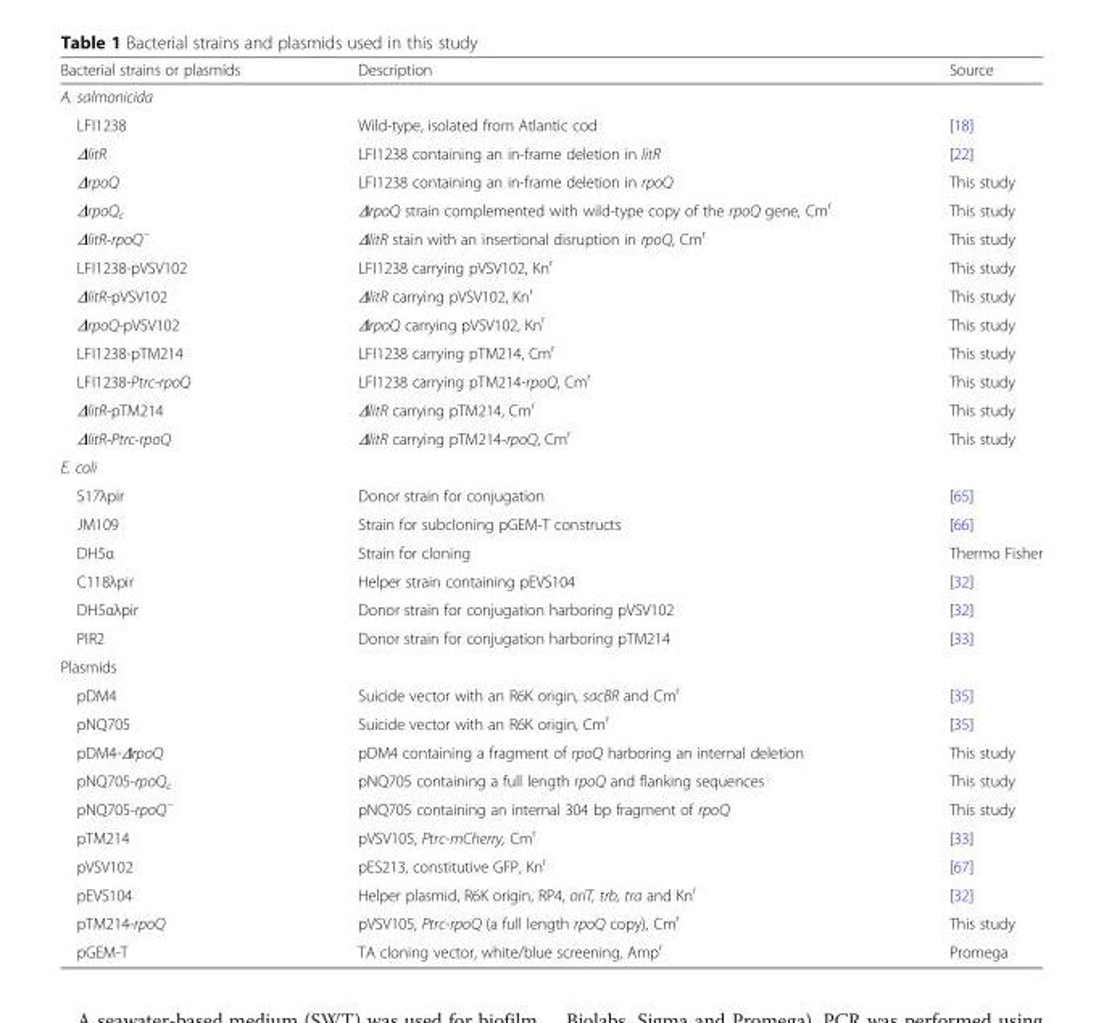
<table><thead><tr><td>Bacterial strains or plasmids</td><td>Description</td><td>Source</td></tr></thead><tbody><tr><td colspan="3">A. salmonicida</td></tr><tr><td>LFI1238</td><td>Wild-type, isolated from Atlantic cod</td><td>[18]</td></tr><tr><td>ΔlitR</td><td>LFI1238 containing an in-frame deletion in litR</td><td>[22]</td></tr><tr><td>ΔrpoQ</td><td>LFI1238 containing an in-frame deletion in rpoQ</td><td>This study</td></tr><tr><td>ΔrpoQ<sub>c</sub></td><td>ΔrpoQ strain complemented with wild-type copy of the rpoQ gene, Cm<sup>r</sup></td><td>This study</td></tr><tr><td>ΔlitR-rpoQ<sup>−</sup></td><td>ΔlitR stain with an insertional disruption in rpoQ, Cm<sup>r</sup></td><td>This study</td></tr><tr><td>LFI1238-pVSV102</td><td>LFI1238 carrying pVSV102, Kn<sup>r</sup></td><td>This study</td></tr><tr><td>ΔlitR-pVSV102</td><td>ΔlitR carrying pVSV102, Kn<sup>r</sup></td><td>This study</td></tr><tr><td>ΔrpoQ-pVSV102</td><td>ΔrpoQ carrying pVSV102, Kn<sup>r</sup></td><td>This study</td></tr><tr><td>LFI1238-pTM214</td><td>LFI1238 carrying pTM214, Cm<sup>r</sup></td><td>This study</td></tr><tr><td>LFI1238-Ptrc-rpoQ</td><td>LFI1238 carrying pTM214-rpoQ, Cm<sup>r</sup></td><td>This study</td></tr><tr><td>ΔlitR-pTM214</td><td>ΔlitR carrying pTM214, Cm<sup>r</sup></td><td>This study</td></tr><tr><td>ΔlitR-Ptrc-rpoQ</td><td>ΔlitR carrying pTM214-rpoQ, Cm<sup>r</sup></td><td>This study</td></tr><tr><td colspan="3">E. coli</td></tr><tr><td>S17λpir</td><td>Donor strain for conjugation</td><td>[65]</td></tr><tr><td>JM109</td><td>Strain for subcloning pGEM-T constructs</td><td>[66]</td></tr><tr><td>DH5α</td><td>Strain for cloning</td><td>Thermo Fisher</td></tr><tr><td>C118λpir</td><td>Helper strain containing pEVS104</td><td>[32]</td></tr><tr><td>DH5αλpir</td><td>Donor strain for conjugation harboring pVSV102</td><td>[32]</td></tr><tr><td>PIR2</td><td>Donor strain for conjugation harboring pTM214</td><td>[33]</td></tr><tr><td colspan="3">Plasmids</td></tr><tr><td>pDM4</td><td>Suicide vector with an R6K origin, sacBR and Cm<sup>r</sup></td><td>[35]</td></tr><tr><td>pNQ705</td><td>Suicide vector with an R6K origin, Cm<sup>r</sup></td><td>[35]</td></tr><tr><td>pDM4-ΔrpoQ</td><td>pDM4 containing a fragment of rpoQ harboring an internal deletion</td><td>This study</td></tr><tr><td>pNQ705-rpoQ<sub>c</sub></td><td>pNQ705 containing a full length rpoQ and flanking sequences</td><td>This study</td></tr><tr><td>pNQ705-rpoQ<sup>−</sup></td><td>pNQ705 containing an internal 304 bp fragment of rpoQ</td><td>This study</td></tr><tr><td>pTM214</td><td>pVSV105, Ptrc-mCherry, Cm<sup>r</sup></td><td>[33]</td></tr><tr><td>pVSV102</td><td>pES213, constitutive GFP, Kn<sup>r</sup></td><td>[67]</td></tr><tr><td>pEVS104</td><td>Helper plasmid, R6K origin, RP4, oriT, trb, tra and Kn<sup>r</sup></td><td>[32]</td></tr><tr><td>pTM214-rpoQ</td><td>pVSV105, Ptrc-rpoQ (a full length rpoQ copy), Cm<sup>r</sup></td><td>This study</td></tr><tr><td>pGEM-T</td><td>TA cloning vector, white/blue screening, Amp<sup>r</sup></td><td>Promega</td></tr></tbody></table>